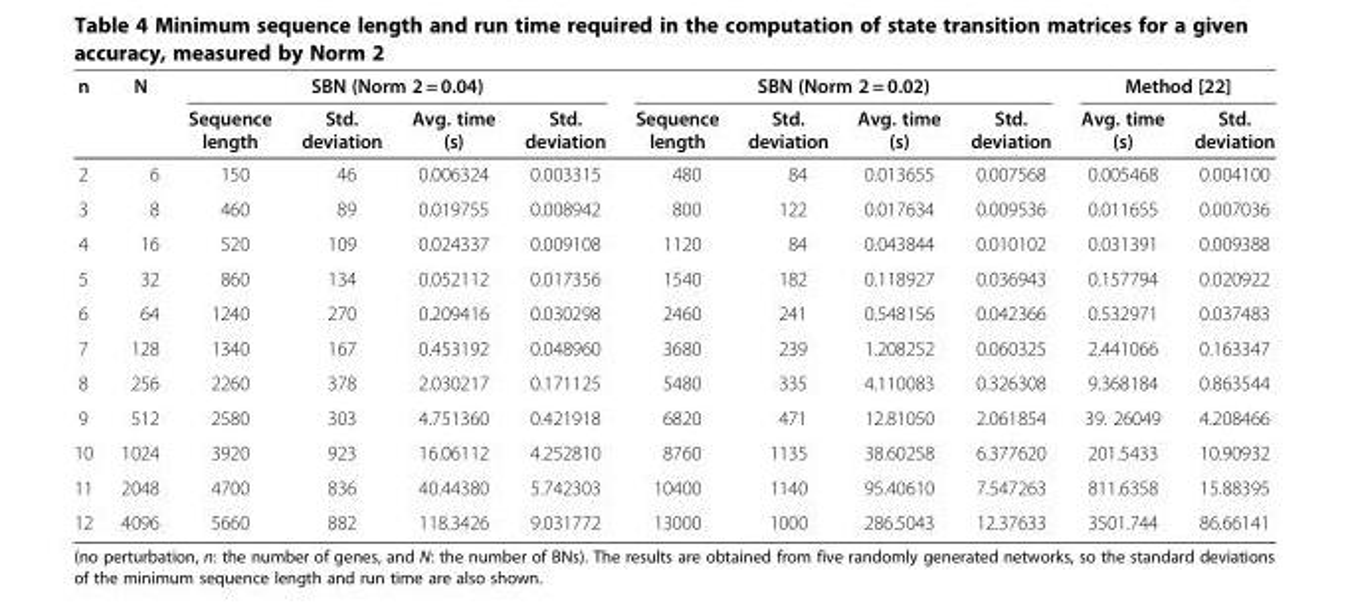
<table><thead><tr><td rowspan="2">n</td><td rowspan="2">N</td><td colspan="4">SBN (Norm 2 = 0.04)</td><td colspan="4">SBN (Norm 2 = 0.02)</td><td colspan="2">Method [22]</td></tr><tr><td>Sequence length</td><td>Std. deviation</td><td>Avg. time (s)</td><td>Std. deviation</td><td>Sequence length</td><td>Std. deviation</td><td>Avg. time (s)</td><td>Std. deviation</td><td>Avg. time (s)</td><td>Std. deviation</td></tr></thead><tbody><tr><td>2</td><td>6</td><td>150</td><td>46</td><td>0.006324</td><td>0.003315</td><td>480</td><td>84</td><td>0.013655</td><td>0.007568</td><td>0.005468</td><td>0.004100</td></tr><tr><td>3</td><td>8</td><td>460</td><td>89</td><td>0.019755</td><td>0.008942</td><td>800</td><td>122</td><td>0.017634</td><td>0.009536</td><td>0.011655</td><td>0.007036</td></tr><tr><td>4</td><td>16</td><td>520</td><td>109</td><td>0.024337</td><td>0.009108</td><td>1120</td><td>84</td><td>0.043844</td><td>0.010102</td><td>0.031391</td><td>0.009388</td></tr><tr><td>5</td><td>32</td><td>860</td><td>134</td><td>0.052112</td><td>0.017356</td><td>1540</td><td>182</td><td>0.118927</td><td>0.036943</td><td>0.157794</td><td>0.020922</td></tr><tr><td>6</td><td>64</td><td>1240</td><td>270</td><td>0.209416</td><td>0.030298</td><td>2460</td><td>241</td><td>0.548156</td><td>0.042366</td><td>0.532971</td><td>0.037483</td></tr><tr><td>7</td><td>128</td><td>1340</td><td>167</td><td>0.453192</td><td>0.048960</td><td>3680</td><td>239</td><td>1.208252</td><td>0.060325</td><td>2.441066</td><td>0.163347</td></tr><tr><td>8</td><td>256</td><td>2260</td><td>378</td><td>2.030217</td><td>0.171125</td><td>5480</td><td>335</td><td>4.110083</td><td>0.326308</td><td>9.368184</td><td>0.863544</td></tr><tr><td>9</td><td>512</td><td>2580</td><td>303</td><td>4.751360</td><td>0.421918</td><td>6820</td><td>471</td><td>12.81050</td><td>2.061854</td><td>39. 26049</td><td>4.208466</td></tr><tr><td>10</td><td>1024</td><td>3920</td><td>923</td><td>16.06112</td><td>4.252810</td><td>8760</td><td>1135</td><td>38.60258</td><td>6.377620</td><td>201.5433</td><td>10.90932</td></tr><tr><td>11</td><td>2048</td><td>4700</td><td>836</td><td>40.44380</td><td>5.742303</td><td>10400</td><td>1140</td><td>95.40610</td><td>7.547263</td><td>811.6358</td><td>15.88395</td></tr><tr><td>12</td><td>4096</td><td>5660</td><td>882</td><td>118.3426</td><td>9.031772</td><td>13000</td><td>1000</td><td>286.5043</td><td>12.37633</td><td>3501.744</td><td>86.66141</td></tr></tbody></table>